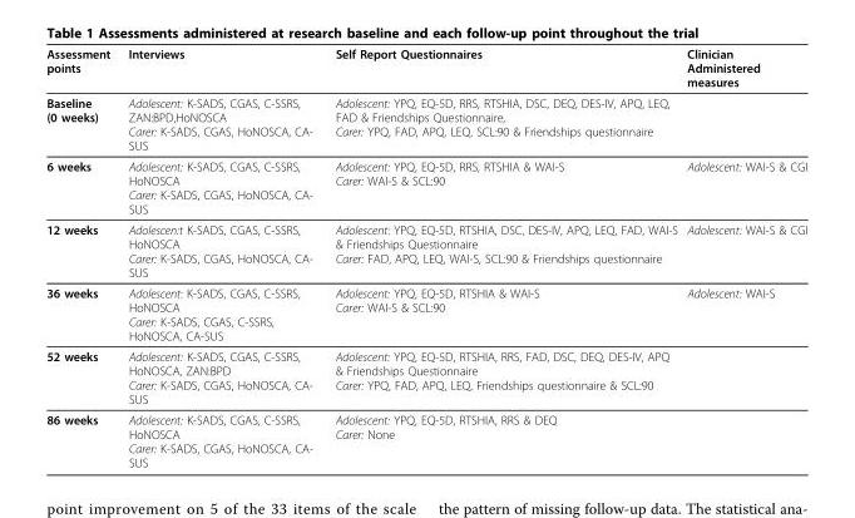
<table><thead><tr><td>Assessment points</td><td>Interviews</td><td>Self Report Questionnaires</td><td>Clinician Administered measures</td></tr></thead><tbody><tr><td>Baseline (0 weeks)</td><td>Adolescent: K-SADS, CGAS, C-SSRS, ZAN:BPD,HoNOSCA Carer: K-SADS, CGAS, HoNOSCA, CA- SUS</td><td>Adolescent: YPQ, EQ-5D, RRS, RTSHIA, DSC, DEQ, DES-IV, APQ, LEQ, FAD &amp; Friendships Questionnaire, Carer: YPQ, FAD, APQ, LEQ, SCL:90 &amp; Friendships questionnaire</td><td></td></tr><tr><td>6 weeks</td><td>Adolescent: K-SADS, CGAS, C-SSRS, HoNOSCA Carer: K-SADS, CGAS, HoNOSCA, CA- SUS</td><td>Adolescent: YPQ, EQ-5D, RRS, RTSHIA &amp; WAI-S Carer: WAI-S &amp; SCL:90</td><td>Adolescent: WAI-S &amp; CGI</td></tr><tr><td>12 weeks</td><td>Adolescen:t K-SADS, CGAS, C-SSRS, HoNOSCA Carer: K-SADS, CGAS, HoNOSCA, CA- SUS</td><td>Adolescent: YPQ, EQ-5D, RTSHIA, DSC, DES-IV, APQ, LEQ, FAD, WAI-S &amp; Friendships Questionnaire Carer: FAD, APQ, LEQ, WAI-S, SCL:90 &amp; Friendships questionnaire</td><td>Adolescent: WAI-S &amp; CGI</td></tr><tr><td>36 weeks</td><td>Adolescent: K-SADS, CGAS, C-SSRS, HoNOSCA Carer: K-SADS, CGAS, C-SSRS, HoNOSCA, CA-SUS</td><td>Adolescent: YPQ, EQ-5D, RTSHIA &amp; WAI-S Carer: WAI-S &amp; SCL:90</td><td>Adolescent: WAI-S</td></tr><tr><td>52 weeks</td><td>Adolescent: K-SADS, CGAS, C-SSRS, HoNOSCA, ZAN:BPD Carer: K-SADS, CGAS, HoNOSCA, CA- SUS</td><td>Adolescent: YPQ, EQ-5D, RTSHIA, RRS, FAD, DSC, DEQ, DES-IV, APQ &amp; Friendships Questionnaire Carer: YPQ, FAD, APQ, LEQ, Friendships questionnaire &amp; SCL:90</td><td></td></tr><tr><td>86 weeks</td><td>Adolescent: K-SADS, CGAS, C-SSRS, HoNOSCA Carer: K-SADS, CGAS, HoNOSCA, CA- SUS</td><td>Adolescent: YPQ, EQ-5D, RTSHIA, RRS &amp; DEQ Carer: None</td><td></td></tr></tbody></table>